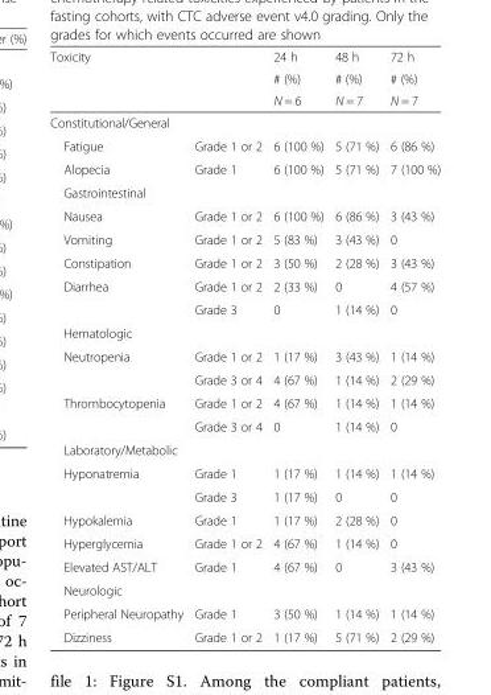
<table><thead><tr><td rowspan="3" colspan="2">Toxicity</td><td rowspan="3">24 h # (%) N = 6</td><td rowspan="3">48 h # (%) N = 7</td><td rowspan="3">72 h # (%) N = 7</td></tr><tr></tr><tr></tr><tr><td colspan="5">Constitutional/General</td></tr><tr><td>Fatigue</td><td>Grade 1 or 2</td><td>6 (100 %)</td><td>5 (71 %)</td><td>6 (86 %)</td></tr></thead><tbody><tr><td>Alopecia</td><td>Grade 1</td><td>6 (100 %)</td><td>5 (71 %)</td><td>7 (100 %)</td></tr><tr><td colspan="5">Gastrointestinal</td></tr><tr><td>Nausea</td><td>Grade 1 or 2</td><td>6 (100 %)</td><td>6 (86 %)</td><td>3 (43 %)</td></tr><tr><td>Vomiting</td><td>Grade 1 or 2</td><td>5 (83 %)</td><td>3 (43 %)</td><td>0</td></tr><tr><td>Constipation</td><td>Grade 1 or 2</td><td>3 (50 %)</td><td>2 (28 %)</td><td>3 (43 %)</td></tr><tr><td rowspan="2">Diarrhea</td><td>Grade 1 or 2</td><td>2 (33 %)</td><td>0</td><td>4 (57 %)</td></tr><tr><td>Grade 3</td><td>0</td><td>1 (14 %)</td><td>0</td></tr><tr><td colspan="5">Hematologic</td></tr><tr><td rowspan="2">Neutropenia</td><td>Grade 1 or 2</td><td>1 (17 %)</td><td>3 (43 %)</td><td>1 (14 %)</td></tr><tr><td>Grade 3 or 4</td><td>4 (67 %)</td><td>1 (14 %)</td><td>2 (29 %)</td></tr><tr><td rowspan="2">Thrombocytopenia</td><td>Grade 1 or 2</td><td>4 (67 %)</td><td>1 (14 %)</td><td>1 (14 %)</td></tr><tr><td>Grade 3 or 4</td><td>0</td><td>1 (14 %)</td><td>0</td></tr><tr><td colspan="5">Laboratory/Metabolic</td></tr><tr><td rowspan="2">Hyponatremia</td><td>Grade 1</td><td>1 (17 %)</td><td>1 (14 %)</td><td>1 (14 %)</td></tr><tr><td>Grade 3</td><td>1 (17 %)</td><td>0</td><td>0</td></tr><tr><td>Hypokalemia</td><td>Grade 1</td><td>1 (17 %)</td><td>2 (28 %)</td><td>0</td></tr><tr><td>Hyperglycemia</td><td>Grade 1 or 2</td><td>4 (67 %)</td><td>1 (14 %)</td><td>0</td></tr><tr><td>Elevated AST/ALT</td><td>Grade 1</td><td>4 (67 %)</td><td>0</td><td>3 (43 %)</td></tr><tr><td colspan="5">Neurologic</td></tr><tr><td>Peripheral Neuropathy</td><td>Grade 1</td><td>3 (50 %)</td><td>1 (14 %)</td><td>1 (14 %)</td></tr><tr><td>Dizziness</td><td>Grade 1 or 2</td><td>1 (17 %)</td><td>5 (71 %)</td><td>2 (29 %)</td></tr></tbody></table>